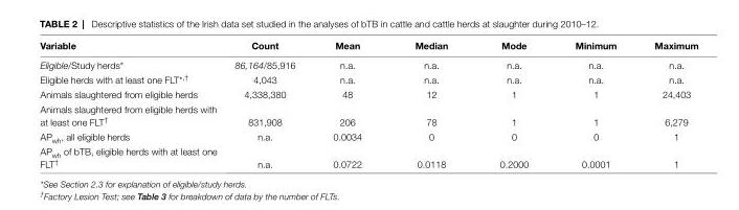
<table><thead><tr><td>Variable</td><td>count</td><td>Mean</td><td>Median</td><td>Mode</td><td>Minimum</td><td>Maximum</td></tr></thead><tbody><tr><td>Eligible/Study herds*</td><td>86,164/85,916</td><td>n.a.</td><td>n.a.</td><td>n.a.</td><td>n.a.</td><td>n.a.</td></tr><tr><td>Eligible herds with at least one FLT*<sup>,†</sup></td><td>4,043</td><td>n.a.</td><td>n.a.</td><td>n.a.</td><td>n.a.</td><td>n.a.</td></tr><tr><td>Animals slaughtered from eligible herds</td><td>4,338,380</td><td>48</td><td>12</td><td>1</td><td>1</td><td>24,403</td></tr><tr><td>Animals slaughtered from eligible herds with at least one FLT<sup>†</sup></td><td>831,908</td><td>206</td><td>78</td><td>1</td><td>1</td><td>6,279</td></tr><tr><td>AP<sub>wh</sub>, all eligible herds</td><td>n.a.</td><td>0.0034</td><td>0</td><td>0</td><td>0</td><td>1</td></tr><tr><td>AP<sub>wh</sub> of bTB, eligible herds with at least one FLT<sup>†</sup></td><td>n.a.</td><td>0.0722</td><td>0.0118</td><td>0.2000</td><td>0.0001</td><td>1</td></tr></tbody></table>